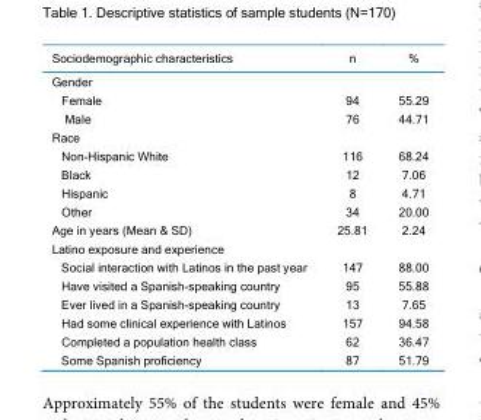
<table><thead><tr><td>Sociodemographic characteristics</td><td>n</td><td>%</td></tr></thead><tbody><tr><td colspan="3">Gender</td></tr><tr><td>Female</td><td>94</td><td>55.29</td></tr><tr><td>Male</td><td>76</td><td>44.71</td></tr><tr><td colspan="3">Race</td></tr><tr><td>Non-Hispanic White</td><td>116</td><td>68.24</td></tr><tr><td>Black</td><td>12</td><td>7.06</td></tr><tr><td>Hispanic</td><td>8</td><td>4.71</td></tr><tr><td>Other</td><td>34</td><td>20.00</td></tr><tr><td>Age in years (Mean &amp; SD)</td><td>25.81</td><td>2.24</td></tr><tr><td colspan="3">Latino exposure and experience</td></tr><tr><td>Social interaction with Latinos in the past year</td><td>147</td><td>88.00</td></tr><tr><td>Have visited a Spanish-speaking country</td><td>95</td><td>55.88</td></tr><tr><td>Ever lived in a Spanish-speaking country</td><td>13</td><td>7.65</td></tr><tr><td>Had some clinical experience with Latinos</td><td>157</td><td>94.58</td></tr><tr><td>Completed a population health class</td><td>62</td><td>36.47</td></tr><tr><td>Some Spanish proficiency</td><td>87</td><td>51.79</td></tr></tbody></table>